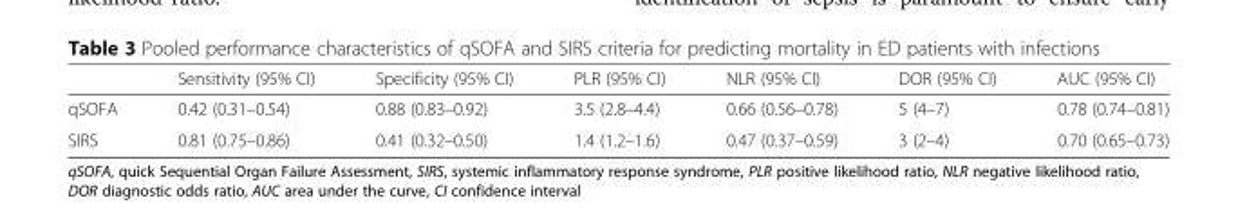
<table><thead><tr><td></td><td>Sensitivity (95% CI)</td><td>Specificity (95% CI)</td><td>PLR (95% CI)</td><td>NLR (95% CI)</td><td>DOR (95% CI)</td><td>AUC (95% CI)</td></tr></thead><tbody><tr><td>qSOFA</td><td>0.42 (0.31–0.54)</td><td>0.88 (0.83–0.92)</td><td>3.5 (2.8–4.4)</td><td>0.66 (0.56–0.78)</td><td>5 (4–7)</td><td>0.78 (0.74–0.81)</td></tr><tr><td>SIRS</td><td>0.81 (0.75–0.86)</td><td>0.41 (0.32–0.50)</td><td>1.4 (1.2–1.6)</td><td>0.47 (0.37–0.59)</td><td>3 (2–4)</td><td>0.70 (0.65–0.73)</td></tr></tbody></table>